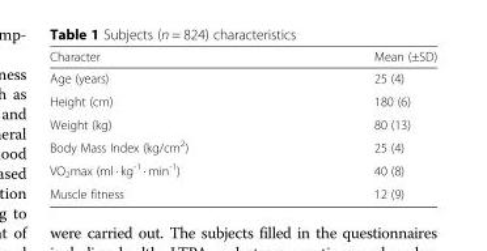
<table><thead><tr><td>Character</td><td>Mean (±SD)</td></tr></thead><tbody><tr><td>Age (years)</td><td>25 (4)</td></tr><tr><td>Height (cm)</td><td>180 (6)</td></tr><tr><td>Weight (kg)</td><td>80 (13)</td></tr><tr><td>Body Mass Index (kg/cm<sup>2</sup>)</td><td>25 (4)</td></tr><tr><td>VO<sub>2</sub>max (ml · kg<sup>-1</sup> · min<sup>-1</sup>)</td><td>40 (8)</td></tr><tr><td>Muscle fitness</td><td>12 (9)</td></tr></tbody></table>